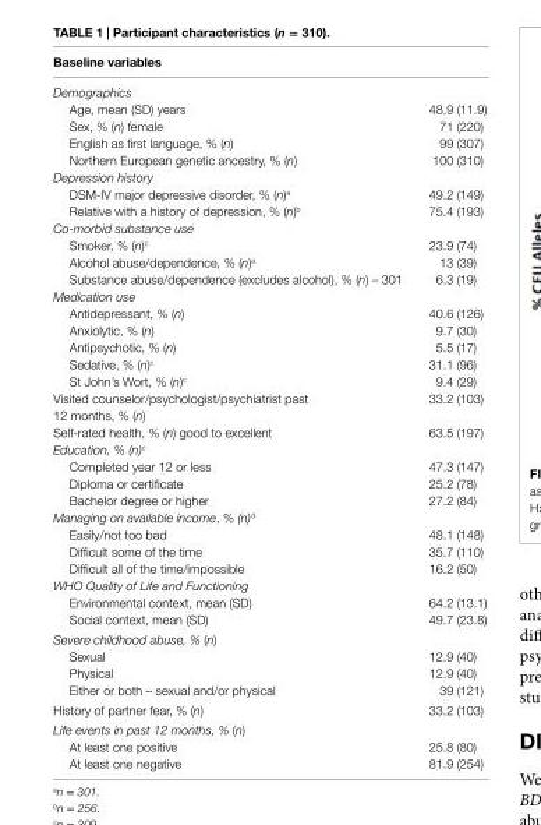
<table><thead><tr><td rowspan="2" colspan="2">Baseline variables Demographics</td></tr><tr></tr><tr><td>Age, mean (SD) years</td><td>48.9 (11.9)</td></tr></thead><tbody><tr><td>Sex, % (n) female</td><td>71 (220)</td></tr><tr><td>English as first language, % (n)</td><td>99 (307)</td></tr><tr><td>Northern European genetic ancestry, % (n)</td><td>100 (310)</td></tr><tr><td colspan="2">Depression history</td></tr><tr><td>DSM-IV major depressive disorder, % (n)<sup>a</sup></td><td>49.2 (149)</td></tr><tr><td>Relative with a history of depression, % (n)<sup>b</sup></td><td>75.4 (193)</td></tr><tr><td colspan="2">Co-morbid substance use</td></tr><tr><td>Smoker, % (n)<sup>c</sup></td><td>23.9 (74)</td></tr><tr><td>Alcohol abuse/dependence, % (n)<sup>a</sup></td><td>13 (39)</td></tr><tr><td>Substance abuse/dependence (excludes alcohol), % (n) – 301</td><td>6.3 (19)</td></tr><tr><td colspan="2">Medication use</td></tr><tr><td>Antidepressant, % (n)</td><td>40.6 (126)</td></tr><tr><td>Anxiolytic, % (n)</td><td>9.7 (30)</td></tr><tr><td>Antipsychotic, % (n)</td><td>5.5 (17)</td></tr><tr><td>Sedative, % (n)<sup>c</sup></td><td>31.1 (96)</td></tr><tr><td>St John’s Wort, % (n)<sup>c</sup></td><td>9.4 (29)</td></tr><tr><td>Visited counselor/psychologist/psychiatrist past 12 months, % (n)</td><td>33.2 (103)</td></tr><tr><td>Self-rated health, % (n) good to excellent</td><td>63.5 (197)</td></tr><tr><td colspan="2">Education, % (n)<sup>c</sup></td></tr><tr><td>Completed year 12 or less</td><td>47.3 (147)</td></tr><tr><td>Diploma or certificate</td><td>25.2 (78)</td></tr><tr><td>Bachelor degree or higher</td><td>27.2 (84)</td></tr><tr><td colspan="2">Managing on available income, % (n)<sup>d</sup></td></tr><tr><td>Easily/not too bad</td><td>48.1 (148)</td></tr><tr><td>Difficult some of the time</td><td>35.7 (110)</td></tr><tr><td>Difficult all of the time/impossible</td><td>16.2 (50)</td></tr><tr><td colspan="2">WHO Quality of Life and Functioning</td></tr><tr><td>Environmental context, mean (SD)</td><td>64.2 (13.1)</td></tr><tr><td>Social context, mean (SD)</td><td>49.7 (23.8)</td></tr><tr><td colspan="2">Severe childhood abuse, % (n)</td></tr><tr><td>Sexual</td><td>12.9 (40)</td></tr><tr><td>Physical</td><td>12.9 (40)</td></tr><tr><td>Either or both – sexual and/or physical</td><td>39 (121)</td></tr><tr><td>History of partner fear, % (n)</td><td>33.2 (103)</td></tr><tr><td colspan="2">Life events in past 12 months, % (n)</td></tr><tr><td>At least one positive</td><td>25.8 (80)</td></tr><tr><td>At least one negative</td><td>81.9 (254)</td></tr></tbody></table>